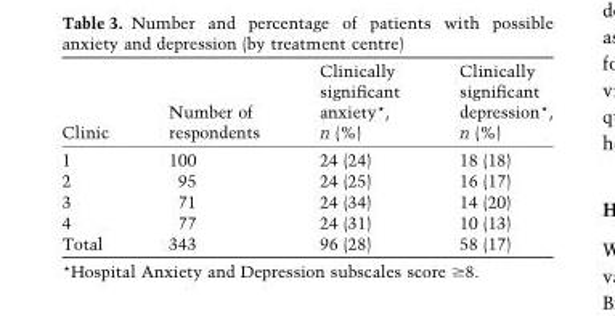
<table><thead><tr><td>Clinic</td><td>Number of respondents</td><td>Clinically significant anxiety*, n (%)</td><td>Clinically significant depression*, n (%)</td></tr></thead><tbody><tr><td>1</td><td>100</td><td>24 (24)</td><td>18 (18)</td></tr><tr><td>2</td><td>95</td><td>24 (25)</td><td>16 (17)</td></tr><tr><td>3</td><td>71</td><td>24 (34)</td><td>14 (20)</td></tr><tr><td>4</td><td>77</td><td>24 (31)</td><td>10 (13)</td></tr><tr><td>Total</td><td>343</td><td>96 (28)</td><td>58 (17)</td></tr></tbody></table>